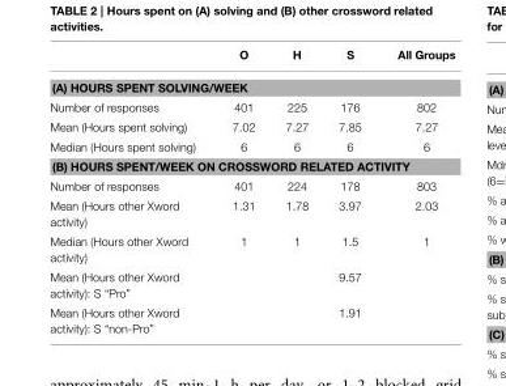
<table><thead><tr><td></td><td>O</td><td>H</td><td>S</td><td>All Groups</td></tr></thead><tbody><tr><td colspan="5">(A) HOURS SPENT SOLVING/WEEK</td></tr><tr><td>Number of responses</td><td>401</td><td>225</td><td>176</td><td>802</td></tr><tr><td>Mean (Hours spent solving)</td><td>7.02</td><td>7.27</td><td>7.85</td><td>7.27</td></tr><tr><td>Median (Hours spent solving)</td><td>6</td><td>6</td><td>6</td><td>6</td></tr><tr><td colspan="5">(B) HOURS SPENT/WEEK ON CROSSWORD RELATED ACTIVITY</td></tr><tr><td>Number of responses</td><td>401</td><td>224</td><td>178</td><td>803</td></tr><tr><td>Mean (Hours other Xword activity)</td><td>1.31</td><td>1.78</td><td>3.97</td><td>2.03</td></tr><tr><td>Median (Hours other Xword activity)</td><td>1</td><td>1</td><td>1.5</td><td>1</td></tr><tr><td>Mean (Hours other Xword activity): S “Pro”</td><td></td><td></td><td>9.57</td><td></td></tr><tr><td>Mean (Hours other Xword activity): S “non-Pro”</td><td></td><td></td><td>1.91</td><td></td></tr></tbody></table>